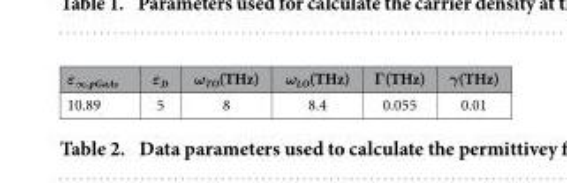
<table><thead><tr><td>ε<sub>∞,pGaAs</sub></td><td>ε<sub>D</sub></td><td>ω<sub>TO</sub>(THz)</td><td>ω<sub>LO</sub>(THz)</td><td>Γ(THz)</td><td>γ(THz)</td></tr></thead><tbody><tr><td>10.89</td><td>5</td><td>8</td><td>8.4</td><td>0.055</td><td>0.01</td></tr></tbody></table>